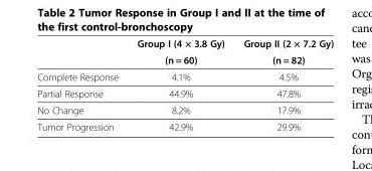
<table><thead><tr><td rowspan="2"></td><td rowspan="2">Group I (4 × 3.8 Gy) (n = 60)</td><td rowspan="2">Group II (2 × 7.2 Gy) (n = 82)</td></tr><tr></tr></thead><tbody><tr><td>Complete Response</td><td>4.1%</td><td>4.5%</td></tr><tr><td>Partial Response</td><td>44.9%</td><td>47.8%</td></tr><tr><td>No Change</td><td>8.2%</td><td>17.9%</td></tr><tr><td>Tumor Progression</td><td>42.9%</td><td>29.9%</td></tr></tbody></table>